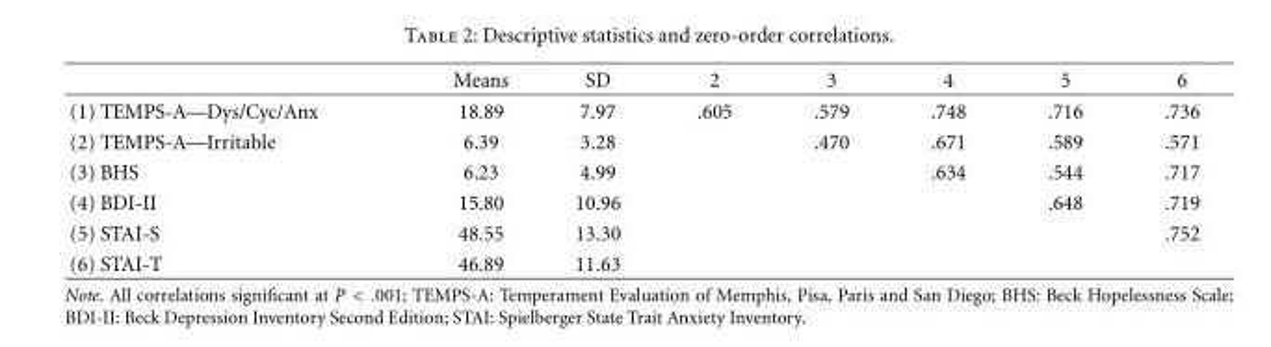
<table><thead><tr><td></td><td>Means</td><td>SD</td><td>2</td><td>3</td><td>4</td><td>5</td><td>6</td></tr></thead><tbody><tr><td>(1) TEMPS-A—Dys/Cyc/Anx</td><td>18.89</td><td>7.97</td><td>.605</td><td>.579</td><td>.748</td><td>.716</td><td>.736</td></tr><tr><td>(2) TEMPS-A—Irritable</td><td>6.39</td><td>3.28</td><td></td><td>.470</td><td>.671</td><td>.589</td><td>.571</td></tr><tr><td>(3) BHS</td><td>6.23</td><td>4.99</td><td></td><td></td><td>.634</td><td>.544</td><td>.717</td></tr><tr><td>(4) BDI-II</td><td>15.80</td><td>10.96</td><td></td><td></td><td></td><td>.648</td><td>.719</td></tr><tr><td>(5) STAI-S</td><td>48.55</td><td>13.30</td><td></td><td></td><td></td><td></td><td>.752</td></tr><tr><td>(6) STAI-T</td><td>46.89</td><td>11.63</td><td></td><td></td><td></td><td></td><td></td></tr></tbody></table>